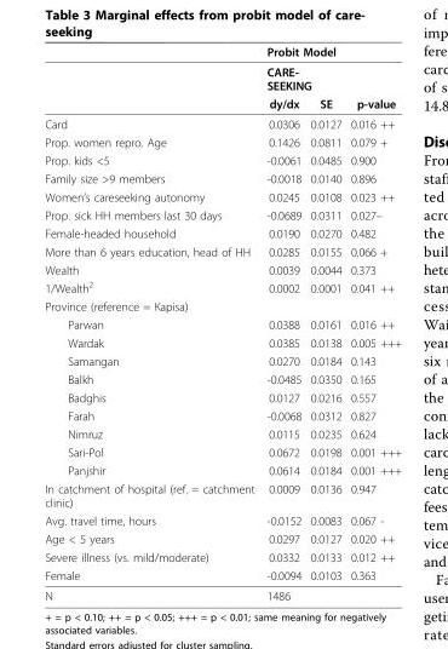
<table><thead><tr><td rowspan="3"></td><td rowspan="2" colspan="2">Probit Model CARE- SEEKING</td><td rowspan="3">p-value</td></tr><tr></tr><tr><td>dy/dx</td><td>SE</td></tr></thead><tbody><tr><td>Card</td><td>0.0306</td><td>0.0127</td><td>0.016 ++</td></tr><tr><td>Prop. women repro. Age</td><td>0.1426</td><td>0.0811</td><td>0.079 +</td></tr><tr><td>Prop. kids &lt;5</td><td>-0.0061</td><td>0.0485</td><td>0.900</td></tr><tr><td>Family size &gt;9 members</td><td>-0.0018</td><td>0.0140</td><td>0.896</td></tr><tr><td>Women’s careseeking autonomy</td><td>0.0245</td><td>0.0108</td><td>0.023 ++</td></tr><tr><td>Prop. sick HH members last 30 days</td><td>-0.0689</td><td>0.0311</td><td>0.027–</td></tr><tr><td>Female-headed household</td><td>0.0190</td><td>0.0270</td><td>0.482</td></tr><tr><td>More than 6 years education, head of HH</td><td>0.0285</td><td>0.0155</td><td>0.066 +</td></tr><tr><td>Wealth</td><td>0.0039</td><td>0.0044</td><td>0.373</td></tr><tr><td>1/Wealth<sup>2</sup></td><td>0.0002</td><td>0.0001</td><td>0.041 ++</td></tr><tr><td colspan="4">Province (reference = Kapisa)</td></tr><tr><td>Parwan</td><td>0.0388</td><td>0.0161</td><td>0.016 ++</td></tr><tr><td>Wardak</td><td>0.0385</td><td>0.0138</td><td>0.005 +++</td></tr><tr><td>Samangan</td><td>0.0270</td><td>0.0184</td><td>0.143</td></tr><tr><td>Balkh</td><td>-0.0485</td><td>0.0350</td><td>0.165</td></tr><tr><td>Badghis</td><td>0.0127</td><td>0.0216</td><td>0.557</td></tr><tr><td>Farah</td><td>-0.0068</td><td>0.0312</td><td>0.827</td></tr><tr><td>Nimruz</td><td>0.0115</td><td>0.0235</td><td>0.624</td></tr><tr><td>Sari-Pol</td><td>0.0672</td><td>0.0198</td><td>0.001 +++</td></tr><tr><td>Panjshir</td><td>0.0614</td><td>0.0184</td><td>0.001 +++</td></tr><tr><td>In catchment of hospital (ref. = catchment clinic)</td><td>0.0009</td><td>0.0136</td><td>0.947</td></tr><tr><td>Avg. travel time, hours</td><td>-0.0152</td><td>0.0083</td><td>0.067 -</td></tr><tr><td>Age &lt; 5 years</td><td>0.0297</td><td>0.0127</td><td>0.020 ++</td></tr><tr><td>Severe illness (vs. mild/moderate)</td><td>0.0332</td><td>0.0133</td><td>0.012 ++</td></tr><tr><td>Female</td><td>-0.0094</td><td>0.0103</td><td>0.363</td></tr><tr><td>N</td><td colspan="3">1486</td></tr></tbody></table>